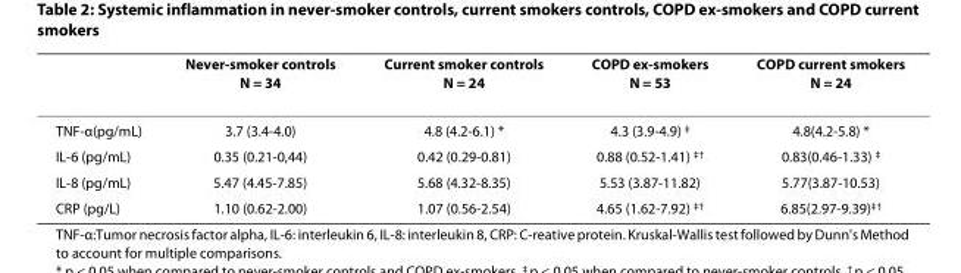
<table><thead><tr><td></td><td>Never-smoker controls N = 34</td><td>Current smoker controls N = 24</td><td>COPD ex-smokers N = 53</td><td>COPD current smokers N = 24</td></tr></thead><tbody><tr><td>TNF-α(pg/mL)</td><td>3.7 (3.4-4.0)</td><td>4.8 (4.2-6.1) *</td><td>4.3 (3.9-4.9) <sup>‡</sup></td><td>4.8(4.2-5.8) *</td></tr><tr><td>IL-6 (pg/mL)</td><td>0.35 (0.21-0,44)</td><td>0.42 (0.29-0.81)</td><td>0.88 (0.52-1.41) <sup>‡†</sup></td><td>0.83(0.46-1.33) <sup>‡</sup></td></tr><tr><td>IL-8 (pg/mL)</td><td>5.47 (4.45-7.85)</td><td>5.68 (4.32-8.35)</td><td>5.53 (3.87-11.82)</td><td>5.77(3.87-10.53)</td></tr><tr><td>CRP (pg/L)</td><td>1.10 (0.62-2.00)</td><td>1.07 (0.56-2.54)</td><td>4.65 (1.62-7.92) <sup>‡†</sup></td><td>6.85(2.97-9.39)<sup>‡†</sup></td></tr></tbody></table>